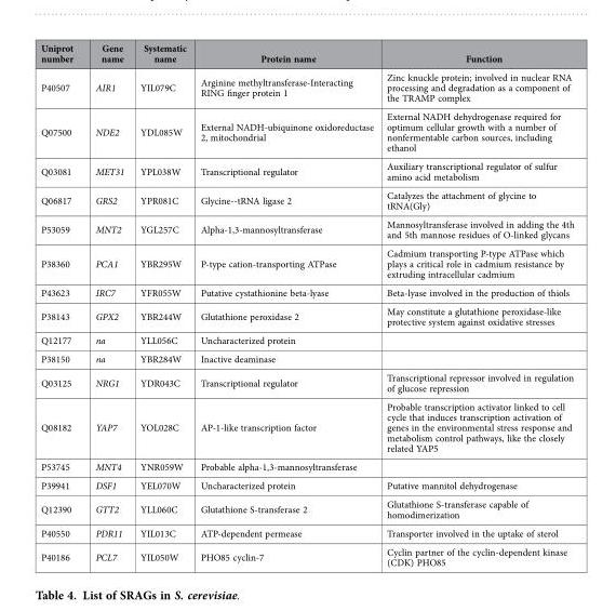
<table><thead><tr><td>Uniprot number</td><td>Gene name</td><td>Systematic name</td><td>Protein name</td><td>Function</td></tr></thead><tbody><tr><td>P40507</td><td>AIR1</td><td>YIL079C</td><td>Arginine methyltransferase-Interacting RING finger protein 1</td><td>Zinc knuckle protein; involved in nuclear RNA processing and degradation as a component of the TRAMP complex</td></tr><tr><td>Q07500</td><td>NDE2</td><td>YDL085W</td><td>External NADH-ubiquinone oxidoreductase 2, mitochondrial</td><td>External NADH dehydrogenase required for optimum cellular growth with a number of nonfermentable carbon sources, including ethanol</td></tr><tr><td>Q03081</td><td>MET31</td><td>YPL038W</td><td>Transcriptional regulator</td><td>Auxiliary transcriptional regulator of sulfur amino acid metabolism</td></tr><tr><td>Q06817</td><td>GRS2</td><td>YPR081C</td><td>Glycine--tRNA ligase 2</td><td>Catalyzes the attachment of glycine to tRNA(Gly)</td></tr><tr><td>P53059</td><td>MNT2</td><td>YGL257C</td><td>Alpha-1,3-mannosyltransferase</td><td>Mannosyltransferase involved in adding the 4th and 5th mannose residues of O-linked glycans</td></tr><tr><td>P38360</td><td>PCA1</td><td>YBR295W</td><td>P-type cation-transporting ATPase</td><td>Cadmium transporting P-type ATPase which plays a critical role in cadmium resistance by extruding intracellular cadmium</td></tr><tr><td>P43623</td><td>IRC7</td><td>YFR055W</td><td>Putative cystathionine beta-lyase</td><td>Beta-lyase involved in the production of thiols</td></tr><tr><td>P38143</td><td>GPX2</td><td>YBR244W</td><td>Glutathione peroxidase 2</td><td>May constitute a glutathione peroxidase-like protective system against oxidative stresses</td></tr><tr><td>Q12177</td><td>na</td><td>YLL056C</td><td>Uncharacterized protein</td><td></td></tr><tr><td>P38150</td><td>na</td><td>YBR284W</td><td>Inactive deaminase</td><td></td></tr><tr><td>Q03125</td><td>NRG1</td><td>YDR043C</td><td>Transcriptional regulator</td><td>Transcriptional repressor involved in regulation of glucose repression</td></tr><tr><td>Q08182</td><td>YAP7</td><td>YOL028C</td><td>AP-1-like transcription factor</td><td>Probable transcription activator linked to cell cycle that induces transcription activation of genes in the environmental stress response and metabolism control pathways, like the closely related YAP5</td></tr><tr><td>P53745</td><td>MNT4</td><td>YNR059W</td><td>Probable alpha-1,3-mannosyltransferase</td><td></td></tr><tr><td>P39941</td><td>DSF1</td><td>YEL070W</td><td>Uncharacterized protein</td><td>Putative mannitol dehydrogenase</td></tr><tr><td>Q12390</td><td>GTT2</td><td>YLL060C</td><td>Glutathione S-transferase 2</td><td>Glutathione S-transferase capable of homodimerization</td></tr><tr><td>P40550</td><td>PDR11</td><td>YIL013C</td><td>ATP-dependent permease</td><td>Transporter involved in the uptake of sterol</td></tr><tr><td>P40186</td><td>PCL7</td><td>YIL050W</td><td>PHO85 cyclin-7</td><td>Cyclin partner of the cyclin-dependent kinase (CDK) PHO85</td></tr></tbody></table>